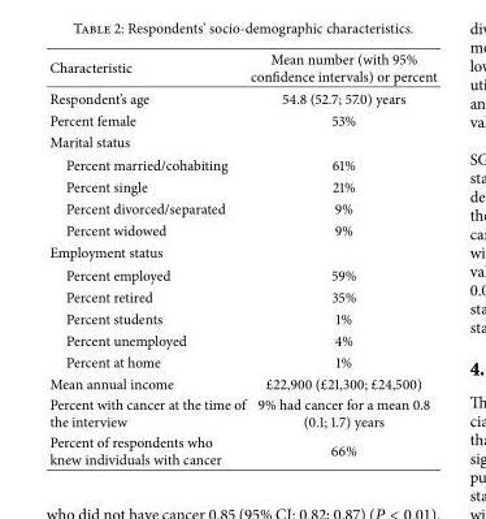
<table><thead><tr><td>Characteristic</td><td>Mean number (with 95% confidence intervals) or percent</td></tr></thead><tbody><tr><td>Respondent’s age</td><td>54.8 (52.7; 57.0) years</td></tr><tr><td>Percent female</td><td>53%</td></tr><tr><td colspan="2">Marital status</td></tr><tr><td>Percent married/cohabiting</td><td>61%</td></tr><tr><td>Percent single</td><td>21%</td></tr><tr><td>Percent divorced/separated</td><td>9%</td></tr><tr><td>Percent widowed</td><td>9%</td></tr><tr><td colspan="2">Employment status</td></tr><tr><td>Percent employed</td><td>59%</td></tr><tr><td>Percent retired</td><td>35%</td></tr><tr><td>Percent students</td><td>1%</td></tr><tr><td>Percent unemployed</td><td>4%</td></tr><tr><td>Percent at home</td><td>1%</td></tr><tr><td>Mean annual income</td><td>£22,900 (£21,300; £24,500)</td></tr><tr><td>Percent with cancer at the time of the interview</td><td>9% had cancer for a mean 0.8 (0.1; 1.7) years</td></tr><tr><td>Percent of respondents who knew individuals with cancer</td><td>66%</td></tr></tbody></table>